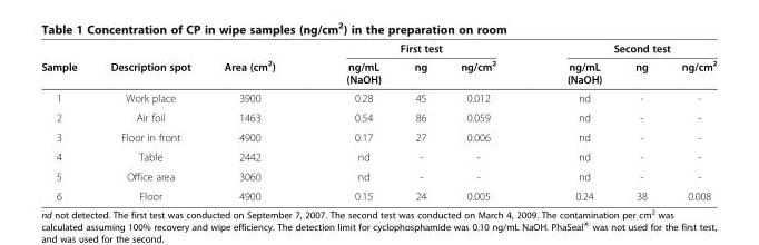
<table><thead><tr><td rowspan="2">Sample</td><td rowspan="2">Description spot</td><td rowspan="2">Area (cm<sup>2</sup>)</td><td colspan="3">First test</td><td colspan="3">Second test</td></tr><tr><td>ng/mL (NaOH)</td><td>ng</td><td>ng/cm<sup>2</sup></td><td>ng/mL (NaOH)</td><td>ng</td><td>ng/cm<sup>2</sup></td></tr></thead><tbody><tr><td>1</td><td>Work place</td><td>3900</td><td>0.28</td><td>45</td><td>0.012</td><td>nd</td><td>-</td><td>-</td></tr><tr><td>2</td><td>Air foil</td><td>1463</td><td>0.54</td><td>86</td><td>0.059</td><td>nd</td><td>-</td><td>-</td></tr><tr><td>3</td><td>Floor in front</td><td>4900</td><td>0.17</td><td>27</td><td>0.006</td><td>nd</td><td>-</td><td>-</td></tr><tr><td>4</td><td>Table</td><td>2442</td><td>nd</td><td>-</td><td>-</td><td>nd</td><td>-</td><td>-</td></tr><tr><td>5</td><td>Office area</td><td>3060</td><td>nd</td><td>-</td><td>-</td><td>nd</td><td>-</td><td>-</td></tr><tr><td>6</td><td>Floor</td><td>4900</td><td>0.15</td><td>24</td><td>0.005</td><td>0.24</td><td>38</td><td>0.008</td></tr></tbody></table>